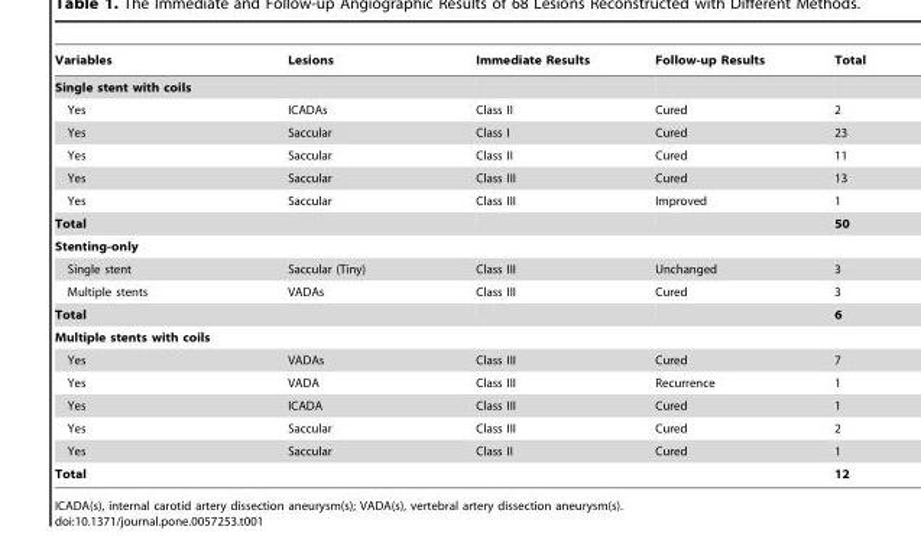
<table><thead><tr><td>Variables</td><td>Lesions</td><td>Immediate Results</td><td>Follow-up Results</td><td>Total</td></tr></thead><tbody><tr><td colspan="5">Single stent with coils</td></tr><tr><td>Yes</td><td>ICADAs</td><td>Class II</td><td>Cured</td><td>2</td></tr><tr><td>Yes</td><td>Saccular</td><td>Class I</td><td>Cured</td><td>23</td></tr><tr><td>Yes</td><td>Saccular</td><td>Class II</td><td>Cured</td><td>11</td></tr><tr><td>Yes</td><td>Saccular</td><td>Class III</td><td>Cured</td><td>13</td></tr><tr><td>Yes</td><td>Saccular</td><td>Class III</td><td>Improved</td><td>1</td></tr><tr><td>Total</td><td></td><td></td><td></td><td>50</td></tr><tr><td colspan="5">Stenting-only</td></tr><tr><td>Single stent</td><td>Saccular (Tiny)</td><td>Class III</td><td>Unchanged</td><td>3</td></tr><tr><td>Multiple stents</td><td>VADAs</td><td>Class III</td><td>Cured</td><td>3</td></tr><tr><td>Total</td><td></td><td></td><td></td><td>6</td></tr><tr><td colspan="5">Multiple stents with coils</td></tr><tr><td>Yes</td><td>VADAs</td><td>Class III</td><td>Cured</td><td>7</td></tr><tr><td>Yes</td><td>VADA</td><td>Class III</td><td>Recurrence</td><td>1</td></tr><tr><td>Yes</td><td>ICADA</td><td>Class III</td><td>Cured</td><td>1</td></tr><tr><td>Yes</td><td>Saccular</td><td>Class III</td><td>Cured</td><td>2</td></tr><tr><td>Yes</td><td>Saccular</td><td>Class II</td><td>Cured</td><td>1</td></tr><tr><td>Total</td><td></td><td></td><td></td><td>12</td></tr></tbody></table>